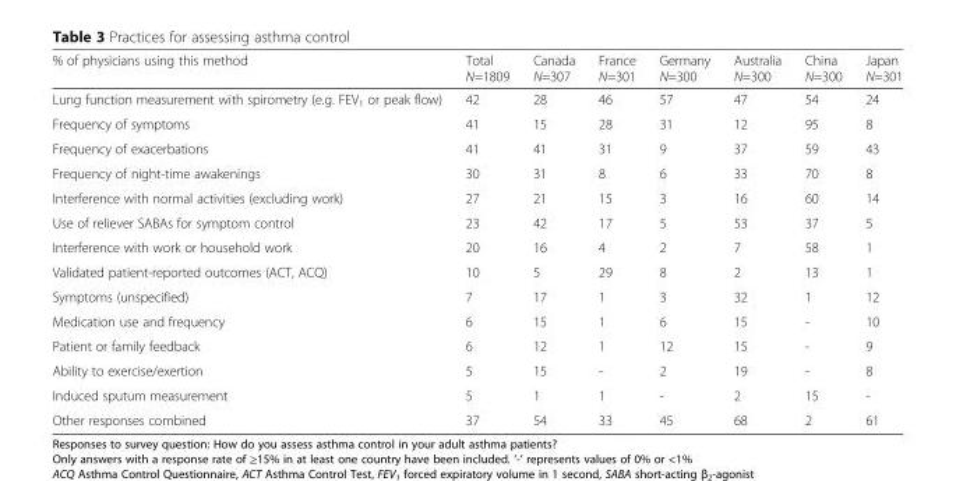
<table><thead><tr><td>% of physicians using this method</td><td>Total N=1809</td><td>Canada N=307</td><td>France N=301</td><td>Germany N=300</td><td>Australia N=300</td><td>China N=300</td><td>Japan N=301</td></tr></thead><tbody><tr><td>Lung function measurement with spirometry (e.g. FEV<sub>1</sub> or peak flow)</td><td>42</td><td>28</td><td>46</td><td>57</td><td>47</td><td>54</td><td>24</td></tr><tr><td>Frequency of symptoms</td><td>41</td><td>15</td><td>28</td><td>31</td><td>12</td><td>95</td><td>8</td></tr><tr><td>Frequency of exacerbations</td><td>41</td><td>41</td><td>31</td><td>9</td><td>37</td><td>59</td><td>43</td></tr><tr><td>Frequency of night-time awakenings</td><td>30</td><td>31</td><td>8</td><td>6</td><td>33</td><td>70</td><td>8</td></tr><tr><td>Interference with normal activities (excluding work)</td><td>27</td><td>21</td><td>15</td><td>3</td><td>16</td><td>60</td><td>14</td></tr><tr><td>Use of reliever SABAs for symptom control</td><td>23</td><td>42</td><td>17</td><td>5</td><td>53</td><td>37</td><td>5</td></tr><tr><td>Interference with work or household work</td><td>20</td><td>16</td><td>4</td><td>2</td><td>7</td><td>58</td><td>1</td></tr><tr><td>Validated patient-reported outcomes (ACT, ACQ)</td><td>10</td><td>5</td><td>29</td><td>8</td><td>2</td><td>13</td><td>1</td></tr><tr><td>Symptoms (unspecified)</td><td>7</td><td>17</td><td>1</td><td>3</td><td>32</td><td>1</td><td>12</td></tr><tr><td>Medication use and frequency</td><td>6</td><td>15</td><td>1</td><td>6</td><td>15</td><td>-</td><td>10</td></tr><tr><td>Patient or family feedback</td><td>6</td><td>12</td><td>1</td><td>12</td><td>15</td><td>-</td><td>9</td></tr><tr><td>Ability to exercise/exertion</td><td>5</td><td>15</td><td>-</td><td>2</td><td>19</td><td>-</td><td>8</td></tr><tr><td>Induced sputum measurement</td><td>5</td><td>1</td><td>1</td><td>-</td><td>2</td><td>15</td><td>-</td></tr><tr><td>Other responses combined</td><td>37</td><td>54</td><td>33</td><td>45</td><td>68</td><td>2</td><td>61</td></tr></tbody></table>